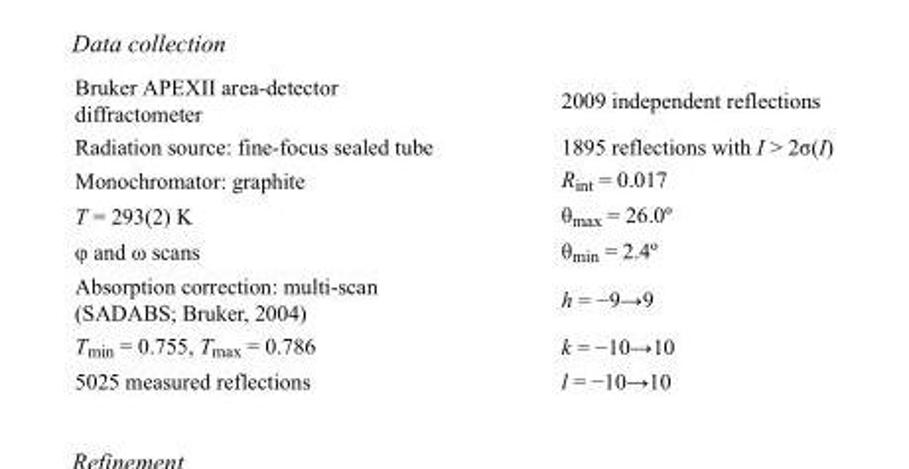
<table><tbody><tr><td>Bruker APEXII area-detector diffractometer</td><td>2009 independent reflections</td></tr><tr><td>Radiation source: fine-focus sealed tube</td><td>1895 reflections with I &gt; 2σ(I)</td></tr><tr><td>Monochromator: graphite</td><td>R<sub>int</sub> = 0.017</td></tr><tr><td>T = 293(2) K</td><td>θ<sub>max</sub> = 26.0º</td></tr><tr><td>φ and ω scans</td><td>θ<sub>min</sub> = 2.4º</td></tr><tr><td>Absorption correction: multi-scan (SADABS; Bruker, 2004)</td><td>h = −9→9</td></tr><tr><td>T<sub>min</sub> = 0.755, T<sub>max</sub> = 0.786</td><td>k = −10→10</td></tr><tr><td>5025 measured reflections</td><td>l = −10→10</td></tr></tbody></table>